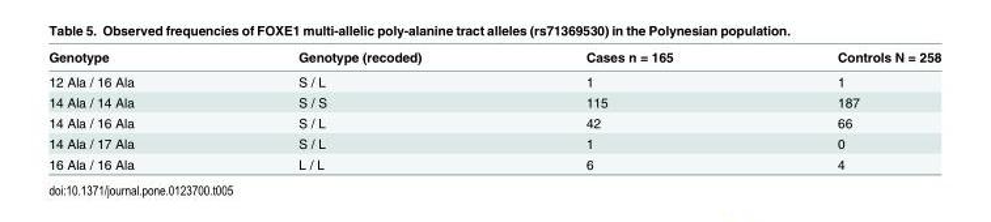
<table><thead><tr><td>Genotype</td><td>Genotype (recoded)</td><td>Cases n = 165</td><td>Controls N = 258</td></tr></thead><tbody><tr><td>12 Ala / 16 Ala</td><td>S / L</td><td>1</td><td>1</td></tr><tr><td>14 Ala / 14 Ala</td><td>S / S</td><td>115</td><td>187</td></tr><tr><td>14 Ala / 16 Ala</td><td>S / L</td><td>42</td><td>66</td></tr><tr><td>14 Ala / 17 Ala</td><td>S / L</td><td>1</td><td>0</td></tr><tr><td>16 Ala / 16 Ala</td><td>L / L</td><td>6</td><td>4</td></tr></tbody></table>